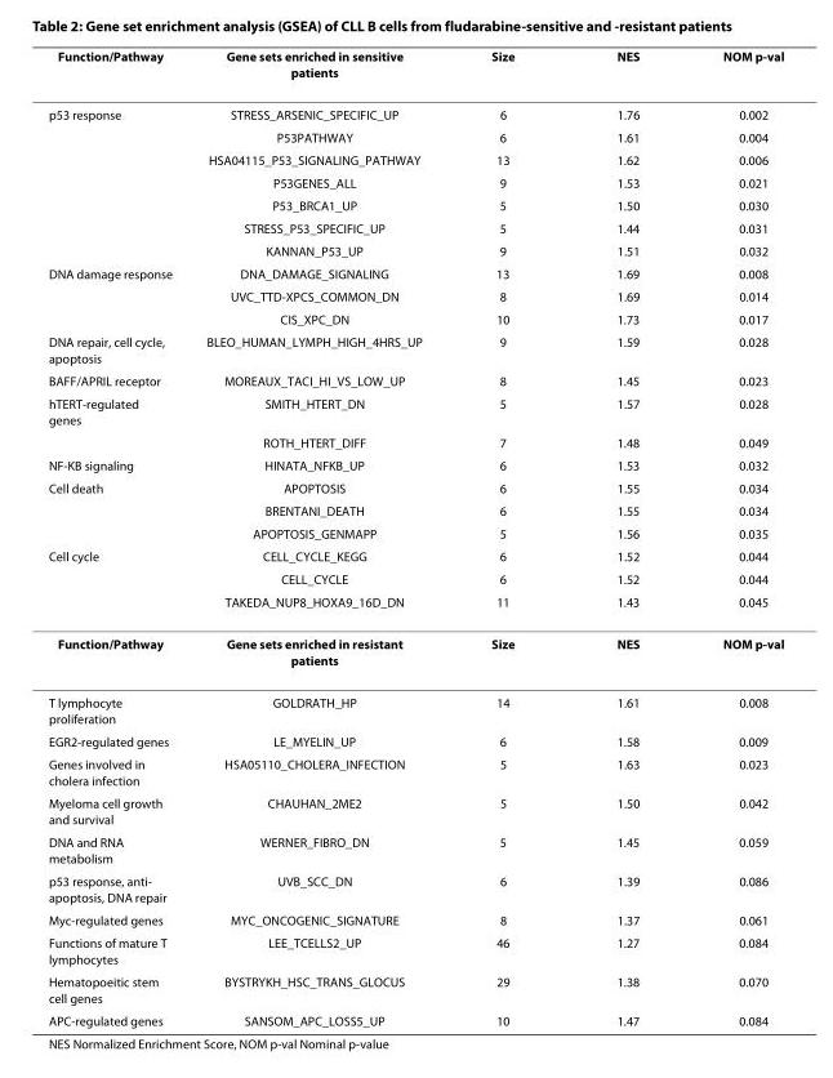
<table><thead><tr><td>Function/Pathway</td><td>Gene sets enriched in sensitive patients</td><td>Size</td><td>NES</td><td>NOM p-val</td></tr></thead><tbody><tr><td rowspan="7">p53 response</td><td>STRESS_ARSENIC_SPECIFIC_UP</td><td>6</td><td>1.76</td><td>0.002</td></tr><tr><td>P53PATHWAY</td><td>6</td><td>1.61</td><td>0.004</td></tr><tr><td>HSA04115_P53_SIGNALING_PATHWAY</td><td>13</td><td>1.62</td><td>0.006</td></tr><tr><td>P53GENES_ALL</td><td>9</td><td>1.53</td><td>0.021</td></tr><tr><td>P53_BRCA1_UP</td><td>5</td><td>1.50</td><td>0.030</td></tr><tr><td>STRESS_P53_SPECIFIC_UP</td><td>5</td><td>1.44</td><td>0.031</td></tr><tr><td>KANNAN_P53_UP</td><td>9</td><td>1.51</td><td>0.032</td></tr><tr><td rowspan="3">DNA damage response</td><td>DNA_DAMAGE_SIGNALING</td><td>13</td><td>1.69</td><td>0.008</td></tr><tr><td>UVC_TTD-XPCS_COMMON_DN</td><td>8</td><td>1.69</td><td>0.014</td></tr><tr><td>CIS_XPC_DN</td><td>10</td><td>1.73</td><td>0.017</td></tr><tr><td>DNA repair, cell cycle, apoptosis</td><td>BLEO_HUMAN_LYMPH_HIGH_4HRS_UP</td><td>9</td><td>1.59</td><td>0.028</td></tr><tr><td>BAFF/APRIL receptor</td><td>MOREAUX_TACI_HI_VS_LOW_UP</td><td>8</td><td>1.45</td><td>0.023</td></tr><tr><td rowspan="2">hTERT-regulated genes</td><td>SMITH_HTERT_DN</td><td>5</td><td>1.57</td><td>0.028</td></tr><tr><td>ROTH_HTERT_DIFF</td><td>7</td><td>1.48</td><td>0.049</td></tr><tr><td>NF-KB signaling</td><td>HINATA_NFKB_UP</td><td>6</td><td>1.53</td><td>0.032</td></tr><tr><td rowspan="3">Cell death</td><td>APOPTOSIS</td><td>6</td><td>1.55</td><td>0.034</td></tr><tr><td>BRENTANI_DEATH</td><td>6</td><td>1.55</td><td>0.034</td></tr><tr><td>APOPTOSIS_GENMAPP</td><td>5</td><td>1.56</td><td>0.035</td></tr><tr><td rowspan="3">Cell cycle</td><td>CELL_CYCLE_KEGG</td><td>6</td><td>1.52</td><td>0.044</td></tr><tr><td>CELL_CYCLE</td><td>6</td><td>1.52</td><td>0.044</td></tr><tr><td>TAKEDA_NUP8_HOXA9_16D_DN</td><td>11</td><td>1.43</td><td>0.045</td></tr><tr><td>Function/Pathway</td><td>Gene sets enriched in resistant patients</td><td>Size</td><td>NES</td><td>NOM p-val</td></tr><tr><td>T lymphocyte proliferation</td><td>GOLDRATH_HP</td><td>14</td><td>1.61</td><td>0.008</td></tr><tr><td>EGR2-regulated genes</td><td>LE_MYELIN_UP</td><td>6</td><td>1.58</td><td>0.009</td></tr><tr><td>Genes involved in cholera infection</td><td>HSA05110_CHOLERA_INFECTION</td><td>5</td><td>1.63</td><td>0.023</td></tr><tr><td>Myeloma cell growth and survival</td><td>CHAUHAN_2ME2</td><td>5</td><td>1.50</td><td>0.042</td></tr><tr><td>DNA and RNA metabolism</td><td>WERNER_FIBRO_DN</td><td>5</td><td>1.45</td><td>0.059</td></tr><tr><td>p53 response, anti- apoptosis, DNA repair</td><td>UVB_SCC_DN</td><td>6</td><td>1.39</td><td>0.086</td></tr><tr><td>Myc-regulated genes</td><td>MYC_ONCOGENIC_SIGNATURE</td><td>8</td><td>1.37</td><td>0.061</td></tr><tr><td>Functions of mature T lymphocytes</td><td>LEE_TCELLS2_UP</td><td>46</td><td>1.27</td><td>0.084</td></tr><tr><td>Hematopoeitic stem cell genes</td><td>BYSTRYKH_HSC_TRANS_GLOCUS</td><td>29</td><td>1.38</td><td>0.070</td></tr><tr><td>APC-regulated genes</td><td>SANSOM_APC_LOSS5_UP</td><td>10</td><td>1.47</td><td>0.084</td></tr></tbody></table>